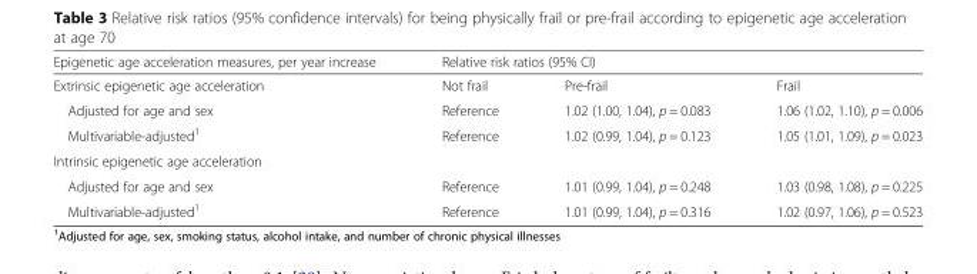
<table><thead><tr><td rowspan="2">Epigenetic age acceleration measures, per year increase Extrinsic epigenetic age acceleration</td><td colspan="3">Relative risk ratios (95% CI)</td></tr><tr><td>Not frail</td><td>Pre-frail</td><td>Frail</td></tr></thead><tbody><tr><td>Adjusted for age and sex</td><td>Reference</td><td>1.02 (1.00, 1.04), p = 0.083</td><td>1.06 (1.02, 1.10), p = 0.006</td></tr><tr><td>Multivariable-adjusted<sup>1</sup></td><td>Reference</td><td>1.02 (0.99, 1.04), p = 0.123</td><td>1.05 (1.01, 1.09), p = 0.023</td></tr><tr><td colspan="4">Intrinsic epigenetic age acceleration</td></tr><tr><td>Adjusted for age and sex</td><td>Reference</td><td>1.01 (0.99, 1.04), p = 0.248</td><td>1.03 (0.98, 1.08), p = 0.225</td></tr><tr><td>Multivariable-adjusted<sup>1</sup></td><td>Reference</td><td>1.01 (0.99, 1.04), p = 0.316</td><td>1.02 (0.97, 1.06), p = 0.523</td></tr></tbody></table>